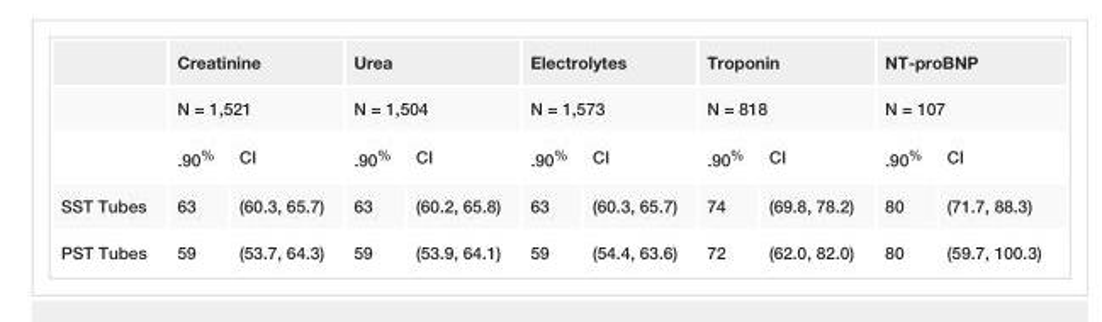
<table><thead><tr><td rowspan="3"></td><td rowspan="2" colspan="2">Creatinine N = 1,521</td><td rowspan="2" colspan="2">Urea N = 1,504</td><td rowspan="2" colspan="2">Electrolytes N = 1,573</td><td rowspan="2" colspan="2">Troponin N = 818</td><td rowspan="2" colspan="2">NT-proBNP N = 107</td></tr><tr></tr><tr><td>.90<sup>%</sup></td><td>CI</td><td>.90<sup>%</sup></td><td>CI</td><td>.90<sup>%</sup></td><td>CI</td><td>.90<sup>%</sup></td><td>CI</td><td>.90<sup>%</sup></td><td>CI</td></tr></thead><tbody><tr><td>SST Tubes</td><td>63</td><td>(60.3, 65.7)</td><td>63</td><td>(60.2, 65.8)</td><td>63</td><td>(60.3, 65.7)</td><td>74</td><td>(69.8, 78.2)</td><td>80</td><td>(71.7, 88.3)</td></tr><tr><td>PST Tubes</td><td>59</td><td>(53.7, 64.3)</td><td>59</td><td>(53.9, 64.1)</td><td>59</td><td>(54.4, 63.6)</td><td>72</td><td>(62.0, 82.0)</td><td>80</td><td>(59.7, 100.3)</td></tr></tbody></table>